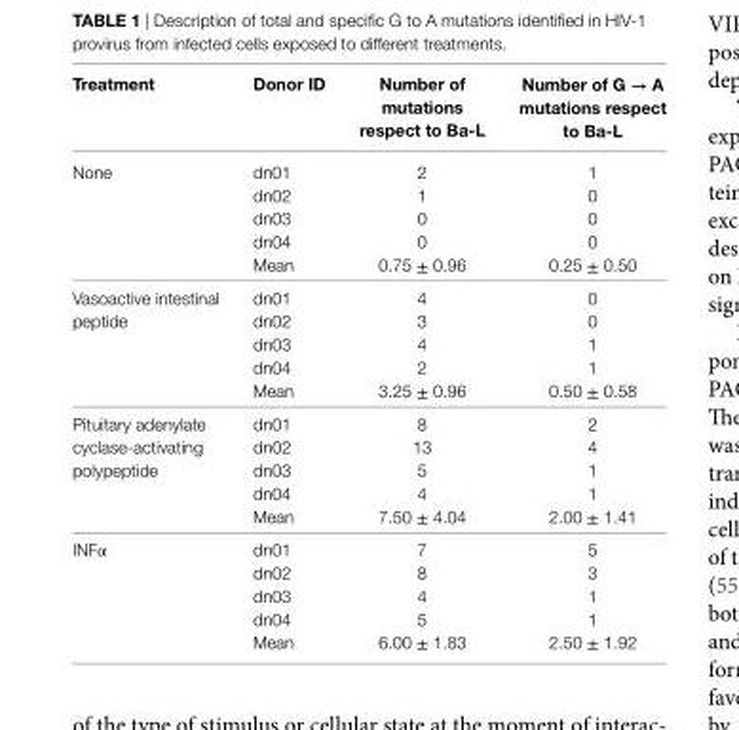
<table><thead><tr><td>Treatment</td><td>Donor iD</td><td>number of mutations respect to Ba-l</td><td>number of g → a mutations respect to Ba-l</td></tr></thead><tbody><tr><td rowspan="5">None</td><td>dn01</td><td>2</td><td>1</td></tr><tr><td>dn02</td><td>1</td><td>0</td></tr><tr><td>dn03</td><td>0</td><td>0</td></tr><tr><td>dn04</td><td>0</td><td>0</td></tr><tr><td>Mean</td><td>0.75 ± 0.96</td><td>0.25 ± 0.50</td></tr><tr><td rowspan="5">Vasoactive intestinal peptide</td><td>dn01</td><td>4</td><td>0</td></tr><tr><td>dn02</td><td>3</td><td>0</td></tr><tr><td>dn03</td><td>4</td><td>1</td></tr><tr><td>dn04</td><td>2</td><td>1</td></tr><tr><td>Mean</td><td>3.25 ± 0.96</td><td>0.50 ± 0.58</td></tr><tr><td rowspan="5">Pituitary adenylate cyclase-activating polypeptide</td><td>dn01</td><td>8</td><td>2</td></tr><tr><td>dn02</td><td>13</td><td>4</td></tr><tr><td>dn03</td><td>5</td><td>1</td></tr><tr><td>dn04</td><td>4</td><td>1</td></tr><tr><td>Mean</td><td>7.50 ± 4.04</td><td>2.00 ± 1.41</td></tr><tr><td rowspan="5">INFα</td><td>dn01</td><td>7</td><td>5</td></tr><tr><td>dn02</td><td>8</td><td>3</td></tr><tr><td>dn03</td><td>4</td><td>1</td></tr><tr><td>dn04</td><td>5</td><td>1</td></tr><tr><td>Mean</td><td>6.00 ± 1.83</td><td>2.50 ± 1.92</td></tr></tbody></table>